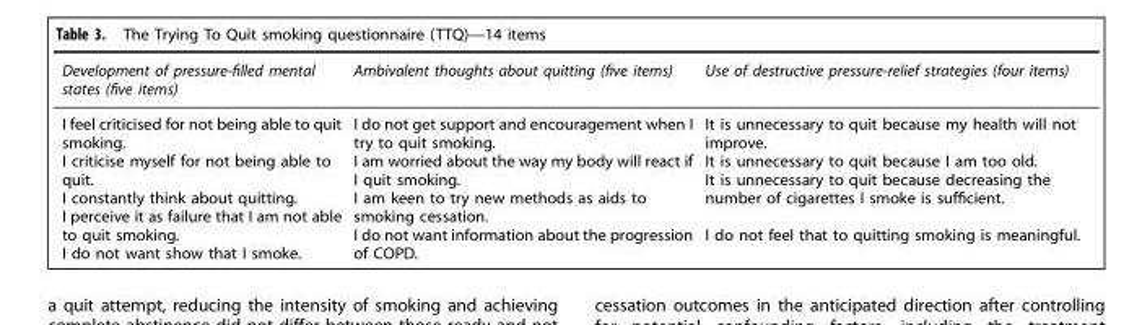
<table><thead><tr><td>Development of pressure-filled mental states (five items)</td><td>Ambivalent thoughts about quitting (five items)</td><td>Use of destructive pressure-relief strategies (four items)</td></tr></thead><tbody><tr><td>I feel criticised for not being able to quit smoking. I criticise myself for not being able to quit. I constantly think about quitting. I perceive it as failure that I am not able to quit smoking. I do not want show that I smoke.</td><td>I do not get support and encouragement when I try to quit smoking. I am worried about the way my body will react if I quit smoking. I am keen to try new methods as aids to smoking cessation. I do not want information about the progression of COPD.</td><td>It is unnecessary to quit because my health will not improve. It is unnecessary to quit because I am too old. It is unnecessary to quit because decreasing the number of cigarettes I smoke is sufficient. I do not feel that to quitting smoking is meaningful.</td></tr></tbody></table>